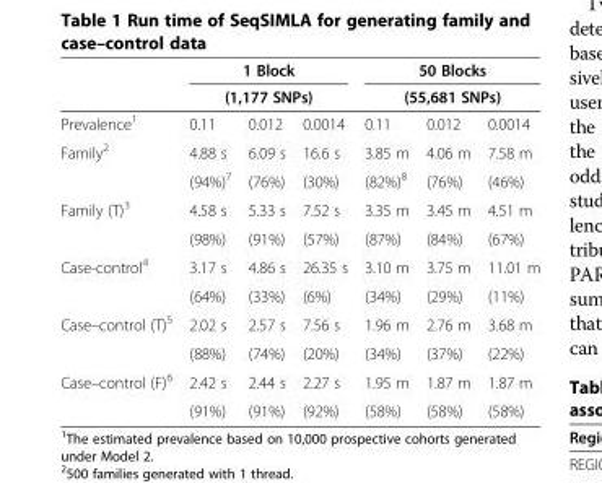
<table><thead><tr><td rowspan="3">Prevalence<sup>1</sup></td><td rowspan="2" colspan="3">1 Block (1,177 SNPs)</td><td rowspan="2" colspan="3">50 Blocks (55,681 SNPs)</td></tr><tr></tr><tr><td>0.11</td><td>0.012</td><td>0.0014</td><td>0.11</td><td>0.012</td><td>0.0014</td></tr></thead><tbody><tr><td rowspan="2">Family<sup>2</sup></td><td>4.88 s</td><td>6.09 s</td><td>16.6 s</td><td>3.85 m</td><td>4.06 m</td><td>7.58 m</td></tr><tr><td>(94%)<sup>7</sup></td><td>(76%)</td><td>(30%)</td><td>(82%)<sup>8</sup></td><td>(76%)</td><td>(46%)</td></tr><tr><td rowspan="2">Family (T)<sup>3</sup></td><td>4.58 s</td><td>5.33 s</td><td>7.52 s</td><td>3.35 m</td><td>3.45 m</td><td>4.51 m</td></tr><tr><td>(98%)</td><td>(91%)</td><td>(57%)</td><td>(87%)</td><td>(84%)</td><td>(67%)</td></tr><tr><td rowspan="2">Case-control<sup>4</sup></td><td>3.17 s</td><td>4.86 s</td><td>26.35 s</td><td>3.10 m</td><td>3.75 m</td><td>11.01 m</td></tr><tr><td>(64%)</td><td>(33%)</td><td>(6%)</td><td>(34%)</td><td>(29%)</td><td>(11%)</td></tr><tr><td rowspan="2">Case–control (T)<sup>5</sup></td><td>2.02 s</td><td>2.57 s</td><td>7.56 s</td><td>1.96 m</td><td>2.76 m</td><td>3.68 m</td></tr><tr><td>(88%)</td><td>(74%)</td><td>(20%)</td><td>(34%)</td><td>(37%)</td><td>(22%)</td></tr><tr><td rowspan="2">Case–control (F)<sup>6</sup></td><td>2.42 s</td><td>2.44 s</td><td>2.27 s</td><td>1.95 m</td><td>1.87 m</td><td>1.87 m</td></tr><tr><td>(91%)</td><td>(91%)</td><td>(92%)</td><td>(58%)</td><td>(58%)</td><td>(58%)</td></tr></tbody></table>